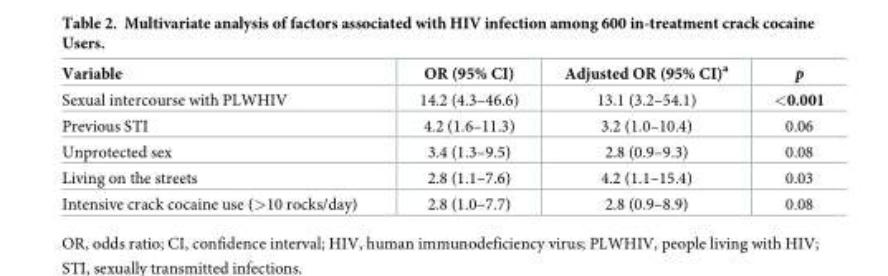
<table><thead><tr><td>Variable</td><td>OR (95% CI)</td><td>Adjusted OR (95% CI)<sup>a</sup></td><td>p</td></tr></thead><tbody><tr><td>Sexual intercourse with PLWHIV</td><td>14.2 (4.3–46.6)</td><td>13.1 (3.2–54.1)</td><td>&lt;0.001</td></tr><tr><td>Previous STI</td><td>4.2 (1.6–11.3)</td><td>3.2 (1.0–10.4)</td><td>0.06</td></tr><tr><td>Unprotected sex</td><td>3.4 (1.3–9.5)</td><td>2.8 (0.9–9.3)</td><td>0.08</td></tr><tr><td>Living on the streets</td><td>2.8 (1.1–7.6)</td><td>4.2 (1.1–15.4)</td><td>0.03</td></tr><tr><td>Intensive crack cocaine use (&gt;10 rocks/day)</td><td>2.8 (1.0–7.7)</td><td>2.8 (0.9–8.9)</td><td>0.08</td></tr></tbody></table>